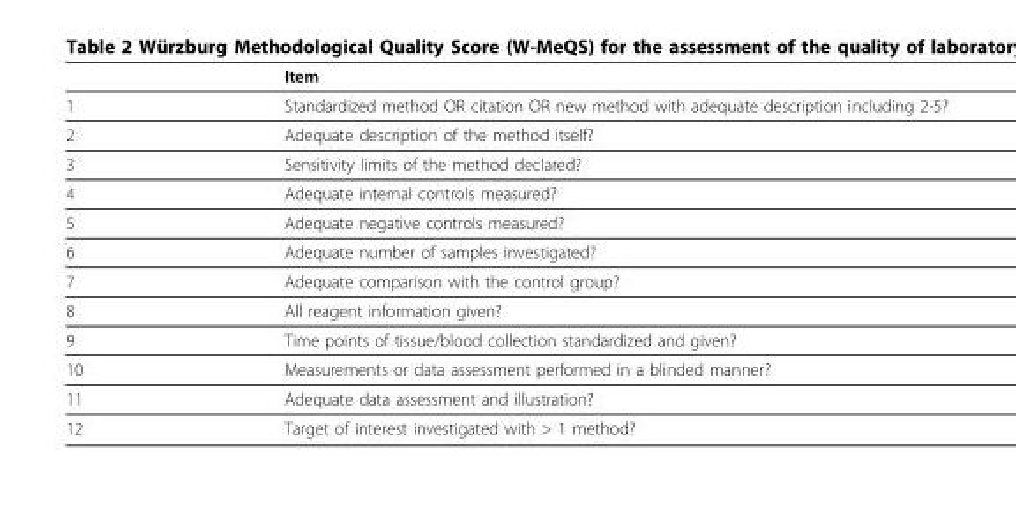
<table><thead><tr><td></td><td>Item</td></tr></thead><tbody><tr><td>1</td><td>Standardized method OR citation OR new method with adequate description including 2-5?</td></tr><tr><td>2</td><td>Adequate description of the method itself?</td></tr><tr><td>3</td><td>Sensitivity limits of the method declared?</td></tr><tr><td>4</td><td>Adequate internal controls measured?</td></tr><tr><td>5</td><td>Adequate negative controls measured?</td></tr><tr><td>6</td><td>Adequate number of samples investigated?</td></tr><tr><td>7</td><td>Adequate comparison with the control group?</td></tr><tr><td>8</td><td>All reagent information given?</td></tr><tr><td>9</td><td>Time points of tissue/blood collection standardized and given?</td></tr><tr><td>10</td><td>Measurements or data assessment performed in a blinded manner?</td></tr><tr><td>11</td><td>Adequate data assessment and illustration?</td></tr><tr><td>12</td><td>Target of interest investigated with &gt; 1 method?</td></tr></tbody></table>